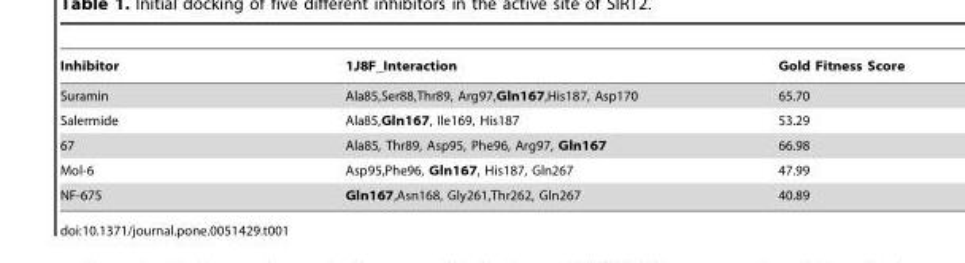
<table><thead><tr><td>Inhibitor</td><td>1J8F_Interaction</td><td>Gold Fitness Score</td></tr></thead><tbody><tr><td>Suramin</td><td>Ala85,Ser88,Thr89, Arg97,Gln167,His187, Asp170</td><td>65.70</td></tr><tr><td>Salermide</td><td>Ala85,Gln167, Ile169, His187</td><td>53.29</td></tr><tr><td>67</td><td>Ala85, Thr89, Asp95, Phe96, Arg97, Gln167</td><td>66.98</td></tr><tr><td>Mol-6</td><td>Asp95,Phe96, Gln167, His187, Gln267</td><td>47.99</td></tr><tr><td>NF-675</td><td>Gln167,Asn168, Gly261,Thr262, Gln267</td><td>40.89</td></tr></tbody></table>